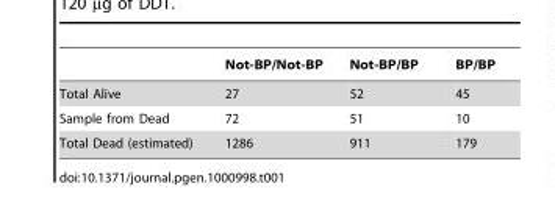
<table><thead><tr><td></td><td>Not-BP/Not-BP</td><td>Not-BP/BP</td><td>BP/BP</td></tr></thead><tbody><tr><td>Total Alive</td><td>27</td><td>52</td><td>45</td></tr><tr><td>Sample from Dead</td><td>72</td><td>51</td><td>10</td></tr><tr><td>Total Dead (estimated)</td><td>1286</td><td>911</td><td>179</td></tr></tbody></table>